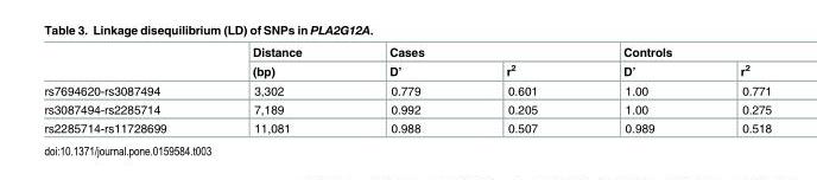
<table><thead><tr><td rowspan="2"></td><td rowspan="2">Distance (bp)</td><td colspan="2">Cases</td><td colspan="2">Controls</td></tr><tr><td>D’</td><td>r<sup>2</sup></td><td>D’</td><td>r<sup>2</sup></td></tr></thead><tbody><tr><td>rs7694620-rs3087494</td><td>3,302</td><td>0.779</td><td>0.601</td><td>1.00</td><td>0.771</td></tr><tr><td>rs3087494-rs2285714</td><td>7,189</td><td>0.992</td><td>0.205</td><td>1.00</td><td>0.275</td></tr><tr><td>rs2285714-rs11728699</td><td>11,081</td><td>0.988</td><td>0.507</td><td>0.989</td><td>0.518</td></tr></tbody></table>